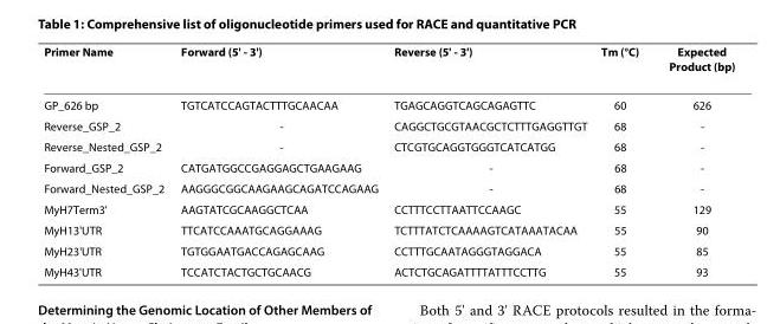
<table><thead><tr><td>Primer Name</td><td>Forward (5&#x27; - 3&#x27;)</td><td>Reverse (5&#x27; - 3&#x27;)</td><td>Tm (°C)</td><td>Expected Product (bp)</td></tr></thead><tbody><tr><td>GP_626 bp</td><td>TGTCATCCAGTACTTTGCAACAA</td><td>TGAGCAGGTCAGCAGAGTTC</td><td>60</td><td>626</td></tr><tr><td>Reverse_GSP_2</td><td>-</td><td>CAGGCTGCGTAACGCTCTTTGAGGTTGT</td><td>68</td><td>-</td></tr><tr><td>Reverse_Nested_GSP_2</td><td>-</td><td>CTCGTGCAGGTGGGTCATCATGG</td><td>68</td><td>-</td></tr><tr><td>Forward_GSP_2</td><td>CATGATGGCCGAGGAGCTGAAGAAG</td><td>-</td><td>68</td><td>-</td></tr><tr><td>Forward_Nested_GSP_2</td><td>AAGGGCGGCAAGAAGCAGATCCAGAAG</td><td>-</td><td>68</td><td>-</td></tr><tr><td>MyH7Term3&#x27;</td><td>AAGTATCGCAAGGCTCAA</td><td>CCTTTCCTTAATTCCAAGC</td><td>55</td><td>129</td></tr><tr><td>MyH13&#x27;UTR</td><td>TTCATCCAAATGCAGGAAAG</td><td>TCTTTATCTCAAAAGTCATAAATACAA</td><td>55</td><td>90</td></tr><tr><td>MyH23&#x27;UTR</td><td>TGTGGAATGACCAGAGCAAG</td><td>CCTTTGCAATAGGGTAGGACA</td><td>55</td><td>85</td></tr><tr><td>MyH43&#x27;UTR</td><td>TCCATCTACTGCTGCAACG</td><td>ACTCTGCAGATTTTATTTCCTTG</td><td>55</td><td>93</td></tr></tbody></table>